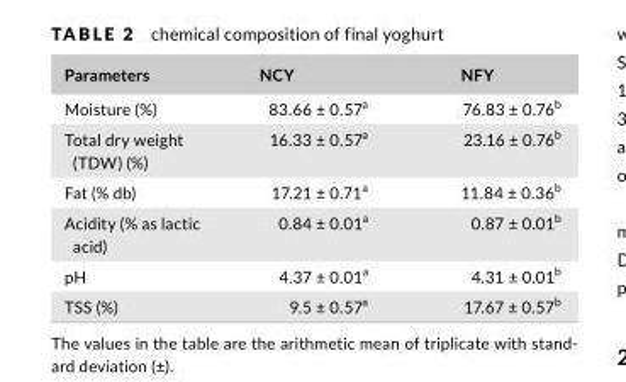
<table><thead><tr><td>Parameters</td><td>NCY</td><td>NFY</td></tr></thead><tbody><tr><td>Moisture (%)</td><td>83.66 ± 0.57<sup>a</sup></td><td>76.83 ± 0.76<sup>b</sup></td></tr><tr><td>Total dry weight (TDW) (%)</td><td>16.33 ± 0.57<sup>a</sup></td><td>23.16 ± 0.76<sup>b</sup></td></tr><tr><td>Fat (% db)</td><td>17.21 ± 0.71<sup>a</sup></td><td>11.84 ± 0.36<sup>b</sup></td></tr><tr><td>Acidity (% as lactic acid)</td><td>0.84 ± 0.01<sup>a</sup></td><td>0.87 ± 0.01<sup>b</sup></td></tr><tr><td>pH</td><td>4.37 ± 0.01<sup>a</sup></td><td>4.31 ± 0.01<sup>b</sup></td></tr><tr><td>TSS (%)</td><td>9.5 ± 0.57<sup>a</sup></td><td>17.67 ± 0.57<sup>b</sup></td></tr></tbody></table>